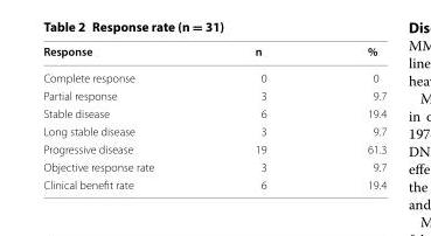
<table><thead><tr><td>Response</td><td>n</td><td>%</td></tr></thead><tbody><tr><td>Complete response</td><td>0</td><td>0</td></tr><tr><td>Partial response</td><td>3</td><td>9.7</td></tr><tr><td>Stable disease</td><td>6</td><td>19.4</td></tr><tr><td>Long stable disease</td><td>3</td><td>9.7</td></tr><tr><td>Progressive disease</td><td>19</td><td>61.3</td></tr><tr><td>Objective response rate</td><td>3</td><td>9.7</td></tr><tr><td>Clinical benefit rate</td><td>6</td><td>19.4</td></tr></tbody></table>